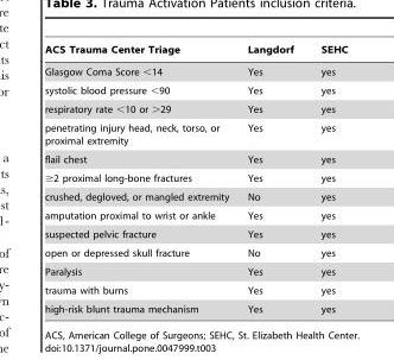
<table><thead><tr><td>ACS Trauma Center Triage</td><td>Langdorf</td><td>SEHC</td></tr></thead><tbody><tr><td>Glasgow Coma Score &lt;14</td><td>Yes</td><td>yes</td></tr><tr><td>systolic blood pressure &lt;90</td><td>Yes</td><td>yes</td></tr><tr><td>respiratory rate &lt;10 or &gt;29</td><td>Yes</td><td>yes</td></tr><tr><td>penetrating injury head, neck, torso, or proximal extremity</td><td>Yes</td><td>yes</td></tr><tr><td>flail chest</td><td>Yes</td><td>yes</td></tr><tr><td>≥2 proximal long-bone fractures</td><td>Yes</td><td>yes</td></tr><tr><td>crushed, degloved, or mangled extremity</td><td>No</td><td>yes</td></tr><tr><td>amputation proximal to wrist or ankle</td><td>Yes</td><td>yes</td></tr><tr><td>suspected pelvic fracture</td><td>Yes</td><td>yes</td></tr><tr><td>open or depressed skull fracture</td><td>No</td><td>yes</td></tr><tr><td>Paralysis</td><td>Yes</td><td>yes</td></tr><tr><td>trauma with burns</td><td>Yes</td><td>yes</td></tr><tr><td>high-risk blunt trauma mechanism</td><td>Yes</td><td>yes</td></tr></tbody></table>